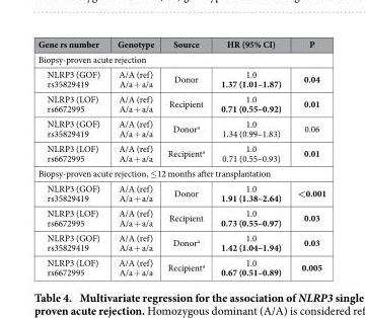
<table><thead><tr><td>Gene rs number</td><td>Genotype</td><td>Source</td><td>HR (95% CI)</td><td>P</td></tr></thead><tbody><tr><td colspan="5">Biopsy-proven acute rejection</td></tr><tr><td>NLRP3 (GOF) rs35829419</td><td>A/A (ref) A/a + a/a</td><td>Donor</td><td>1.0 1.37 (1.01–1.87)</td><td>0.04</td></tr><tr><td>NLRP3 (LOF) rs6672995</td><td>A/A (ref) A/a + a/a</td><td>Recipient</td><td>1.0 0.71 (0.55–0.92)</td><td>0.01</td></tr><tr><td>NLRP3 (GOF) rs35829419</td><td>A/A (ref) A/a + a/a</td><td>Donor<sup>a</sup></td><td>1.0 1.34 (0.99–1.83)</td><td>0.06</td></tr><tr><td>NLRP3 (LOF) rs6672995</td><td>A/A (ref) A/a + a/a</td><td>Recipient<sup>a</sup></td><td>1.0 0.71 (0.55–0.93)</td><td>0.01</td></tr><tr><td colspan="5">Biopsy-proven acute rejection, ≤ 12 months after transplantation</td></tr><tr><td>NLRP3 (GOF) rs35829419</td><td>A/A (ref) A/a + a/a</td><td>Donor</td><td>1.0 1.91 (1.38–2.64)</td><td>&lt;0.001</td></tr><tr><td>NLRP3 (LOF) rs6672995</td><td>A/A (ref) A/a + a/a</td><td>Recipient</td><td>1.0 0.73 (0.55–0.97)</td><td>0.03</td></tr><tr><td>NLRP3 (GOF) rs35829419</td><td>A/A (ref) A/a + a/a</td><td>Donor<sup>a</sup></td><td>1.0 1.42 (1.04–1.94)</td><td>0.03</td></tr><tr><td>NLRP3 (LOF) rs6672995</td><td>A/A (ref) A/a + a/a</td><td>Recipient<sup>a</sup></td><td>1.0 0.67 (0.51–0.89)</td><td>0.005</td></tr></tbody></table>